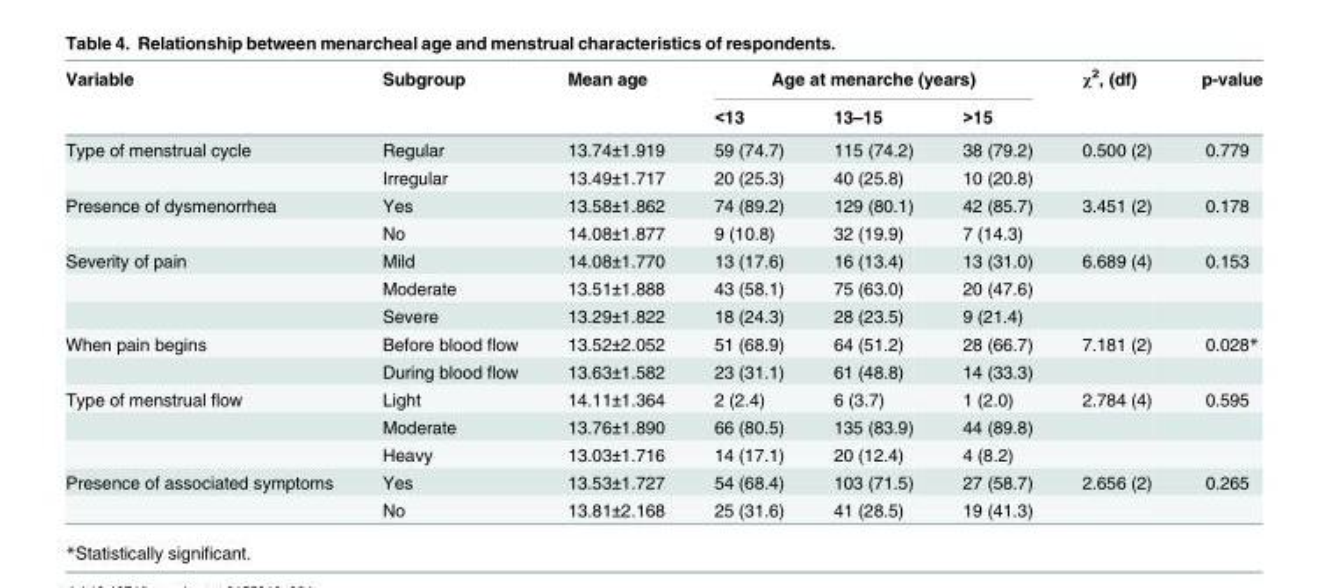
<table><thead><tr><td rowspan="2">Variable</td><td rowspan="2">Subgroup</td><td rowspan="2">Mean age</td><td colspan="3">Age at menarche (years)</td><td rowspan="2">χ<sup>2</sup>, (df)</td><td rowspan="2">p-value</td></tr><tr><td>&lt;13</td><td>13–15</td><td>&gt;15</td></tr></thead><tbody><tr><td rowspan="2">Type of menstrual cycle</td><td>Regular</td><td>13.74±1.919</td><td>59 (74.7)</td><td>115 (74.2)</td><td>38 (79.2)</td><td>0.500 (2)</td><td>0.779</td></tr><tr><td>Irregular</td><td>13.49±1.717</td><td>20 (25.3)</td><td>40 (25.8)</td><td>10 (20.8)</td><td></td><td></td></tr><tr><td rowspan="2">Presence of dysmenorrhea</td><td>Yes</td><td>13.58±1.862</td><td>74 (89.2)</td><td>129 (80.1)</td><td>42 (85.7)</td><td>3.451 (2)</td><td>0.178</td></tr><tr><td>No</td><td>14.08±1.877</td><td>9 (10.8)</td><td>32 (19.9)</td><td>7 (14.3)</td><td></td><td></td></tr><tr><td rowspan="3">Severity of pain</td><td>Mild</td><td>14.08±1.770</td><td>13 (17.6)</td><td>16 (13.4)</td><td>13 (31.0)</td><td>6.689 (4)</td><td>0.153</td></tr><tr><td>Moderate</td><td>13.51±1.888</td><td>43 (58.1)</td><td>75 (63.0)</td><td>20 (47.6)</td><td></td><td></td></tr><tr><td>Severe</td><td>13.29±1.822</td><td>18 (24.3)</td><td>28 (23.5)</td><td>9 (21.4)</td><td></td><td></td></tr><tr><td rowspan="2">When pain begins</td><td>Before blood flow</td><td>13.52±2.052</td><td>51 (68.9)</td><td>64 (51.2)</td><td>28 (66.7)</td><td>7.181 (2)</td><td>0.028*</td></tr><tr><td>During blood flow</td><td>13.63±1.582</td><td>23 (31.1)</td><td>61 (48.8)</td><td>14 (33.3)</td><td></td><td></td></tr><tr><td rowspan="3">Type of menstrual flow</td><td>Light</td><td>14.11±1.364</td><td>2 (2.4)</td><td>6 (3.7)</td><td>1 (2.0)</td><td>2.784 (4)</td><td>0.595</td></tr><tr><td>Moderate</td><td>13.76±1.890</td><td>66 (80.5)</td><td>135 (83.9)</td><td>44 (89.8)</td><td></td><td></td></tr><tr><td>Heavy</td><td>13.03±1.716</td><td>14 (17.1)</td><td>20 (12.4)</td><td>4 (8.2)</td><td></td><td></td></tr><tr><td rowspan="2">Presence of associated symptoms</td><td>Yes</td><td>13.53±1.727</td><td>54 (68.4)</td><td>103 (71.5)</td><td>27 (58.7)</td><td>2.656 (2)</td><td>0.265</td></tr><tr><td>No</td><td>13.81±2.168</td><td>25 (31.6)</td><td>41 (28.5)</td><td>19 (41.3)</td><td></td><td></td></tr></tbody></table>